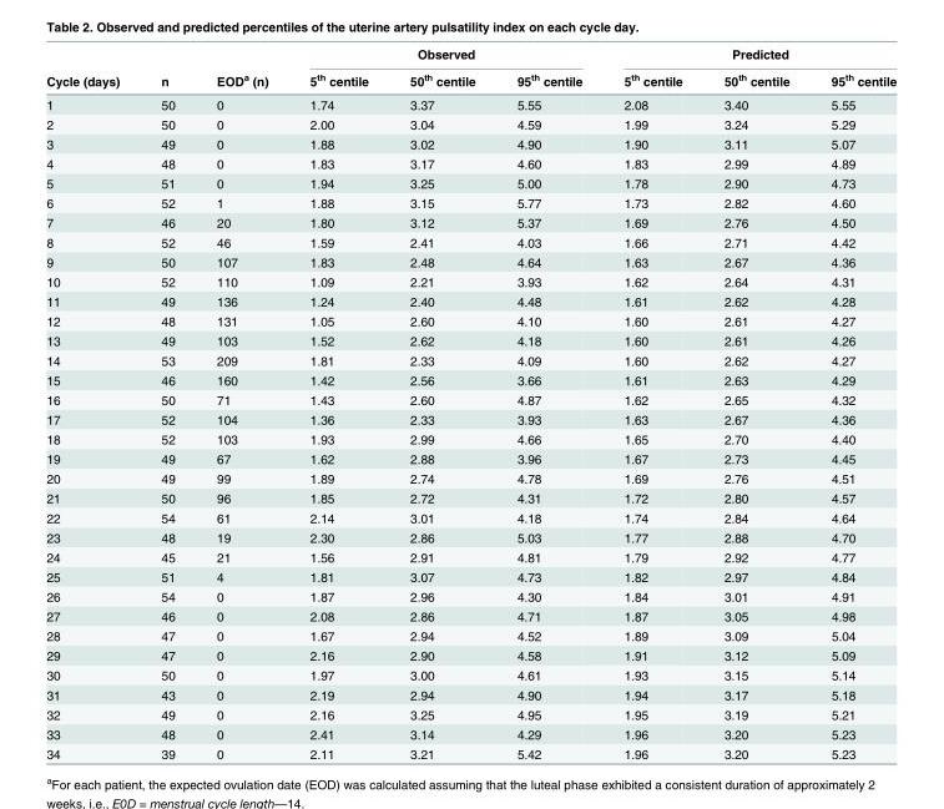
<table><thead><tr><td rowspan="2">Cycle (days)</td><td rowspan="2">n</td><td rowspan="2">EOD<sup>a</sup> (n)</td><td colspan="3">Observed</td><td colspan="3">Predicted</td></tr><tr><td>5<sup>th</sup> centile</td><td>50<sup>th</sup> centile</td><td>95<sup>th</sup> centile</td><td>5<sup>th</sup> centile</td><td>50<sup>th</sup> centile</td><td>95<sup>th</sup> centile</td></tr></thead><tbody><tr><td>1</td><td>50</td><td>0</td><td>1.74</td><td>3.37</td><td>5.55</td><td>2.08</td><td>3.40</td><td>5.55</td></tr><tr><td>2</td><td>50</td><td>0</td><td>2.00</td><td>3.04</td><td>4.59</td><td>1.99</td><td>3.24</td><td>5.29</td></tr><tr><td>3</td><td>49</td><td>0</td><td>1.88</td><td>3.02</td><td>4.90</td><td>1.90</td><td>3.11</td><td>5.07</td></tr><tr><td>4</td><td>48</td><td>0</td><td>1.83</td><td>3.17</td><td>4.60</td><td>1.83</td><td>2.99</td><td>4.89</td></tr><tr><td>5</td><td>51</td><td>0</td><td>1.94</td><td>3.25</td><td>5.00</td><td>1.78</td><td>2.90</td><td>4.73</td></tr><tr><td>6</td><td>52</td><td>1</td><td>1.88</td><td>3.15</td><td>5.77</td><td>1.73</td><td>2.82</td><td>4.60</td></tr><tr><td>7</td><td>46</td><td>20</td><td>1.80</td><td>3.12</td><td>5.37</td><td>1.69</td><td>2.76</td><td>4.50</td></tr><tr><td>8</td><td>52</td><td>46</td><td>1.59</td><td>2.41</td><td>4.03</td><td>1.66</td><td>2.71</td><td>4.42</td></tr><tr><td>9</td><td>50</td><td>107</td><td>1.83</td><td>2.48</td><td>4.64</td><td>1.63</td><td>2.67</td><td>4.36</td></tr><tr><td>10</td><td>52</td><td>110</td><td>1.09</td><td>2.21</td><td>3.93</td><td>1.62</td><td>2.64</td><td>4.31</td></tr><tr><td>11</td><td>49</td><td>136</td><td>1.24</td><td>2.40</td><td>4.48</td><td>1.61</td><td>2.62</td><td>4.28</td></tr><tr><td>12</td><td>48</td><td>131</td><td>1.05</td><td>2.60</td><td>4.10</td><td>1.60</td><td>2.61</td><td>4.27</td></tr><tr><td>13</td><td>49</td><td>103</td><td>1.52</td><td>2.62</td><td>4.18</td><td>1.60</td><td>2.61</td><td>4.26</td></tr><tr><td>14</td><td>53</td><td>209</td><td>1.81</td><td>2.33</td><td>4.09</td><td>1.60</td><td>2.62</td><td>4.27</td></tr><tr><td>15</td><td>46</td><td>160</td><td>1.42</td><td>2.56</td><td>3.66</td><td>1.61</td><td>2.63</td><td>4.29</td></tr><tr><td>16</td><td>50</td><td>71</td><td>1.43</td><td>2.60</td><td>4.87</td><td>1.62</td><td>2.65</td><td>4.32</td></tr><tr><td>17</td><td>52</td><td>104</td><td>1.36</td><td>2.33</td><td>3.93</td><td>1.63</td><td>2.67</td><td>4.36</td></tr><tr><td>18</td><td>52</td><td>103</td><td>1.93</td><td>2.99</td><td>4.66</td><td>1.65</td><td>2.70</td><td>4.40</td></tr><tr><td>19</td><td>49</td><td>67</td><td>1.62</td><td>2.88</td><td>3.96</td><td>1.67</td><td>2.73</td><td>4.45</td></tr><tr><td>20</td><td>49</td><td>99</td><td>1.89</td><td>2.74</td><td>4.78</td><td>1.69</td><td>2.76</td><td>4.51</td></tr><tr><td>21</td><td>50</td><td>96</td><td>1.85</td><td>2.72</td><td>4.31</td><td>1.72</td><td>2.80</td><td>4.57</td></tr><tr><td>22</td><td>54</td><td>61</td><td>2.14</td><td>3.01</td><td>4.18</td><td>1.74</td><td>2.84</td><td>4.64</td></tr><tr><td>23</td><td>48</td><td>19</td><td>2.30</td><td>2.86</td><td>5.03</td><td>1.77</td><td>2.88</td><td>4.70</td></tr><tr><td>24</td><td>45</td><td>21</td><td>1.56</td><td>2.91</td><td>4.81</td><td>1.79</td><td>2.92</td><td>4.77</td></tr><tr><td>25</td><td>51</td><td>4</td><td>1.81</td><td>3.07</td><td>4.73</td><td>1.82</td><td>2.97</td><td>4.84</td></tr><tr><td>26</td><td>54</td><td>0</td><td>1.87</td><td>2.96</td><td>4.30</td><td>1.84</td><td>3.01</td><td>4.91</td></tr><tr><td>27</td><td>46</td><td>0</td><td>2.08</td><td>2.86</td><td>4.71</td><td>1.87</td><td>3.05</td><td>4.98</td></tr><tr><td>28</td><td>47</td><td>0</td><td>1.67</td><td>2.94</td><td>4.52</td><td>1.89</td><td>3.09</td><td>5.04</td></tr><tr><td>29</td><td>47</td><td>0</td><td>2.16</td><td>2.90</td><td>4.58</td><td>1.91</td><td>3.12</td><td>5.09</td></tr><tr><td>30</td><td>50</td><td>0</td><td>1.97</td><td>3.00</td><td>4.61</td><td>1.93</td><td>3.15</td><td>5.14</td></tr><tr><td>31</td><td>43</td><td>0</td><td>2.19</td><td>2.94</td><td>4.90</td><td>1.94</td><td>3.17</td><td>5.18</td></tr><tr><td>32</td><td>49</td><td>0</td><td>2.16</td><td>3.25</td><td>4.95</td><td>1.95</td><td>3.19</td><td>5.21</td></tr><tr><td>33</td><td>48</td><td>0</td><td>2.41</td><td>3.14</td><td>4.29</td><td>1.96</td><td>3.20</td><td>5.23</td></tr><tr><td>34</td><td>39</td><td>0</td><td>2.11</td><td>3.21</td><td>5.42</td><td>1.96</td><td>3.20</td><td>5.23</td></tr></tbody></table>